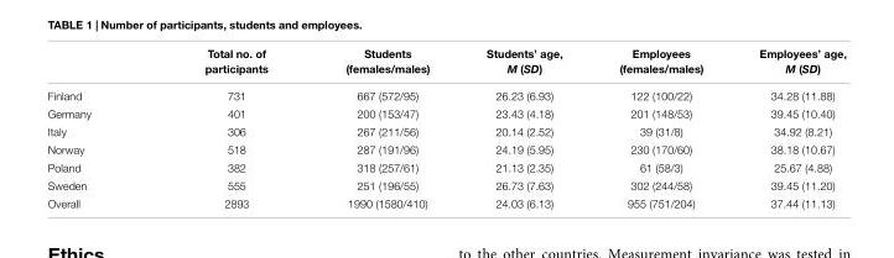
<table><thead><tr><td></td><td>Total no. of participants</td><td>Students (females/males)</td><td>Students’ age, M (SD)</td><td>Employees (females/males)</td><td>Employees’ age, M (SD)</td></tr></thead><tbody><tr><td>Finland</td><td>731</td><td>667 (572/95)</td><td>26.23 (6.93)</td><td>122 (100/22)</td><td>34.28 (11.88)</td></tr><tr><td>Germany</td><td>401</td><td>200 (153/47)</td><td>23.43 (4.18)</td><td>201 (148/53)</td><td>39.45 (10.40)</td></tr><tr><td>Italy</td><td>306</td><td>267 (211/56)</td><td>20.14 (2.52)</td><td>39 (31/8)</td><td>34.92 (8.21)</td></tr><tr><td>Norway</td><td>518</td><td>287 (191/96)</td><td>24.19 (5.95)</td><td>230 (170/60)</td><td>38.18 (10.67)</td></tr><tr><td>Poland</td><td>382</td><td>318 (257/61)</td><td>21.13 (2.35)</td><td>61 (58/3)</td><td>25.67 (4.88)</td></tr><tr><td>Sweden</td><td>555</td><td>251 (196/55)</td><td>26.73 (7.63)</td><td>302 (244/58)</td><td>39.45 (11.20)</td></tr><tr><td>Overall</td><td>2893</td><td>1990 (1580/410)</td><td>24.03 (6.13)</td><td>955 (751/204)</td><td>37.44 (11.13)</td></tr></tbody></table>